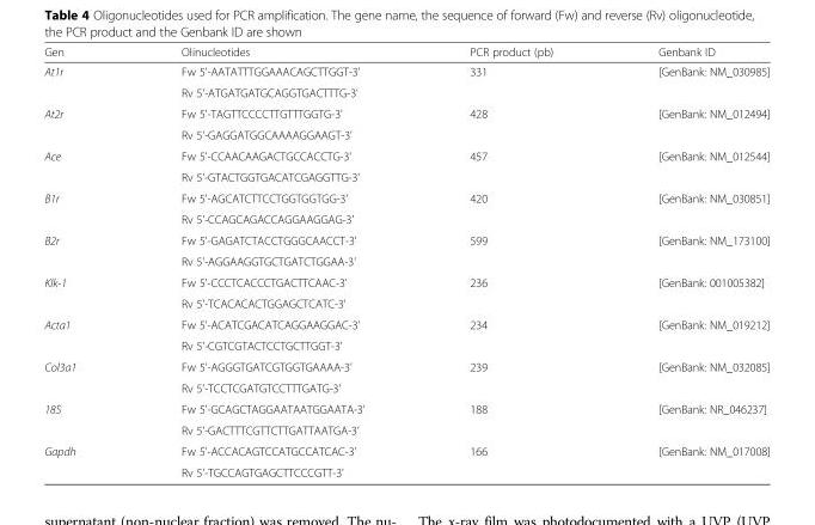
<table><thead><tr><td>Gen</td><td>Olinucleotides</td><td>PCR product (pb)</td><td>Genbank ID</td></tr></thead><tbody><tr><td rowspan="2">At1r</td><td>Fw 5&#x27;-AATATTTGGAAACAGCTTGGT-3&#x27;</td><td rowspan="2">331</td><td rowspan="2">[GenBank: NM_030985]</td></tr><tr><td>Rv 5&#x27;-ATGATGATGCAGGTGACTTTG-3&#x27;</td></tr><tr><td rowspan="2">At2r</td><td>Fw 5&#x27;-TAGTTCCCCTTGTTTGGTG-3&#x27;</td><td rowspan="2">428</td><td rowspan="2">[GenBank: NM_012494]</td></tr><tr><td>Rv 5&#x27;-GAGGATGGCAAAAGGAAGT-3&#x27;</td></tr><tr><td rowspan="2">Ace</td><td>Fw 5&#x27;-CCAACAAGACTGCCACCTG-3&#x27;</td><td rowspan="2">457</td><td rowspan="2">[GenBank: NM_012544]</td></tr><tr><td>Rv 5&#x27;-GTACTGGTGACATCGAGGTTG-3&#x27;</td></tr><tr><td rowspan="2">B1r</td><td>Fw 5&#x27;-AGCATCTTCCTGGTGGTGG-3&#x27;</td><td rowspan="2">420</td><td rowspan="2">[GenBank: NM_030851]</td></tr><tr><td>Rv 5&#x27;-CCAGCAGACCAGGAAGGAG-3&#x27;</td></tr><tr><td rowspan="2">B2r</td><td>Fw 5&#x27;-GAGATCTACCTGGGCAACCT-3&#x27;</td><td rowspan="2">599</td><td rowspan="2">[GenBank: NM_173100]</td></tr><tr><td>Rv 5&#x27;-AGGAAGGTGCTGATCTGGAA-3&#x27;</td></tr><tr><td rowspan="2">Klk-1</td><td>Fw 5&#x27;-CCCTCACCCTGACTTCAAC-3&#x27;</td><td rowspan="2">236</td><td rowspan="2">[GenBank: 001005382]</td></tr><tr><td>Rv 5&#x27;-TCACACACTGGAGCTCATC-3&#x27;</td></tr><tr><td rowspan="2">Acta1</td><td>Fw 5&#x27;-ACATCGACATCAGGAAGGAC-3&#x27;</td><td rowspan="2">234</td><td rowspan="2">[GenBank: NM_019212]</td></tr><tr><td>Rv 5&#x27;-CGTCGTACTCCTGCTTGGT-3&#x27;</td></tr><tr><td rowspan="2">Col3a1</td><td>Fw 5&#x27;-AGGGTGATCGTGGTGAAAA-3&#x27;</td><td rowspan="2">239</td><td rowspan="2">[GenBank: NM_032085]</td></tr><tr><td>Rv 5&#x27;-TCCTCGATGTCCTTTGATG-3&#x27;</td></tr><tr><td rowspan="2">18S</td><td>Fw 5&#x27;-GCAGCTAGGAATAATGGAATA-3&#x27;</td><td rowspan="2">188</td><td rowspan="2">[GenBank: NR_046237]</td></tr><tr><td>Rv 5&#x27;-GACTTTCGTTCTTGATTAATGA-3&#x27;</td></tr><tr><td rowspan="2">Gapdh</td><td>Fw 5&#x27;-ACCACAGTCCATGCCATCAC-3&#x27;</td><td rowspan="2">166</td><td rowspan="2">[GenBank: NM_017008]</td></tr><tr><td>Rv 5&#x27;-TGCCAGTGAGCTTCCCGTT-3&#x27;</td></tr></tbody></table>